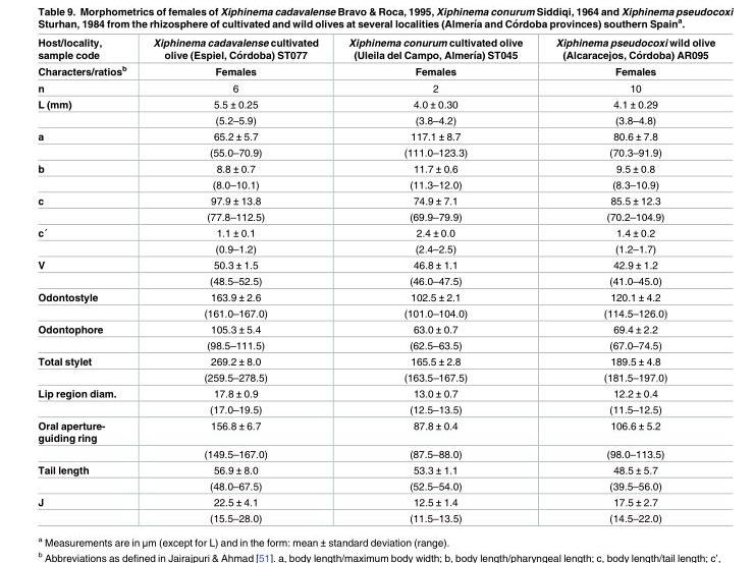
<table><thead><tr><td rowspan="2">Host/locality, sample code Characters/ratios<sup>b</sup></td><td rowspan="2">Xiphinema cadavalense cultivated olive (Espiel, Co´rdoba) ST077 Females</td><td rowspan="2">Xiphinema conurum cultivated olive (Uleila del Campo, Almerı´a) ST045 Females</td><td rowspan="2">Xiphinema pseudocoxi wild olive (Alcaracejos, Co´rdoba) AR095 Females</td></tr><tr></tr></thead><tbody><tr><td>n</td><td>6</td><td>2</td><td>10</td></tr><tr><td rowspan="2">L (mm)</td><td>5.5 ± 0.25</td><td>4.0 ± 0.30</td><td>4.1 ± 0.29</td></tr><tr><td>(5.2–5.9)</td><td>(3.8–4.2)</td><td>(3.8–4.8)</td></tr><tr><td rowspan="2">a</td><td>65.2 ± 5.7</td><td>117.1 ± 8.7</td><td>80.6 ± 7.8</td></tr><tr><td>(55.0–70.9)</td><td>(111.0–123.3)</td><td>(70.3–91.9)</td></tr><tr><td rowspan="2">b</td><td>8.8 ± 0.7</td><td>11.7 ± 0.6</td><td>9.5 ± 0.8</td></tr><tr><td>(8.0–10.1)</td><td>(11.3–12.0)</td><td>(8.3–10.9)</td></tr><tr><td rowspan="2">c</td><td>97.9 ± 13.8</td><td>74.9 ± 7.1</td><td>85.5 ± 12.3</td></tr><tr><td>(77.8–112.5)</td><td>(69.9–79.9)</td><td>(70.2–104.9)</td></tr><tr><td rowspan="2">c´</td><td>1.1 ± 0.1</td><td>2.4 ± 0.0</td><td>1.4 ± 0.2</td></tr><tr><td>(0.9–1.2)</td><td>(2.4–2.5)</td><td>(1.2–1.7)</td></tr><tr><td rowspan="2">V</td><td>50.3 ± 1.5</td><td>46.8 ± 1.1</td><td>42.9 ± 1.2</td></tr><tr><td>(48.5–52.5)</td><td>(46.0–47.5)</td><td>(41.0–45.0)</td></tr><tr><td rowspan="2">Odontostyle</td><td>163.9 ± 2.6</td><td>102.5 ± 2.1</td><td>120.1 ± 4.2</td></tr><tr><td>(161.0–167.0)</td><td>(101.0–104.0)</td><td>(114.5–126.0)</td></tr><tr><td rowspan="2">Odontophore</td><td>105.3 ± 5.4</td><td>63.0 ± 0.7</td><td>69.4 ± 2.2</td></tr><tr><td>(98.5–111.5)</td><td>(62.5–63.5)</td><td>(67.0–74.5)</td></tr><tr><td rowspan="2">Total stylet</td><td>269.2 ± 8.0</td><td>165.5 ± 2.8</td><td>189.5 ± 4.8</td></tr><tr><td>(259.5–278.5)</td><td>(163.5–167.5)</td><td>(181.5–197.0)</td></tr><tr><td rowspan="2">Lip region diam.</td><td>17.8 ± 0.9</td><td>13.0 ± 0.7</td><td>12.2 ± 0.4</td></tr><tr><td>(17.0–19.5)</td><td>(12.5–13.5)</td><td>(11.5–12.5)</td></tr><tr><td rowspan="2">Oral aperture- guiding ring</td><td>156.8 ± 6.7</td><td>87.8 ± 0.4</td><td>106.6 ± 5.2</td></tr><tr><td>(149.5–167.0)</td><td>(87.5–88.0)</td><td>(98.0–113.5)</td></tr><tr><td rowspan="2">Tail length</td><td>56.9 ± 8.0</td><td>53.3 ± 1.1</td><td>48.5 ± 5.7</td></tr><tr><td>(48.0–67.5)</td><td>(52.5–54.0)</td><td>(39.5–56.0)</td></tr><tr><td rowspan="2">J</td><td>22.5 ± 4.1</td><td>12.5 ± 1.4</td><td>17.5 ± 2.7</td></tr><tr><td>(15.5–28.0)</td><td>(11.5–13.5)</td><td>(14.5–22.0)</td></tr></tbody></table>